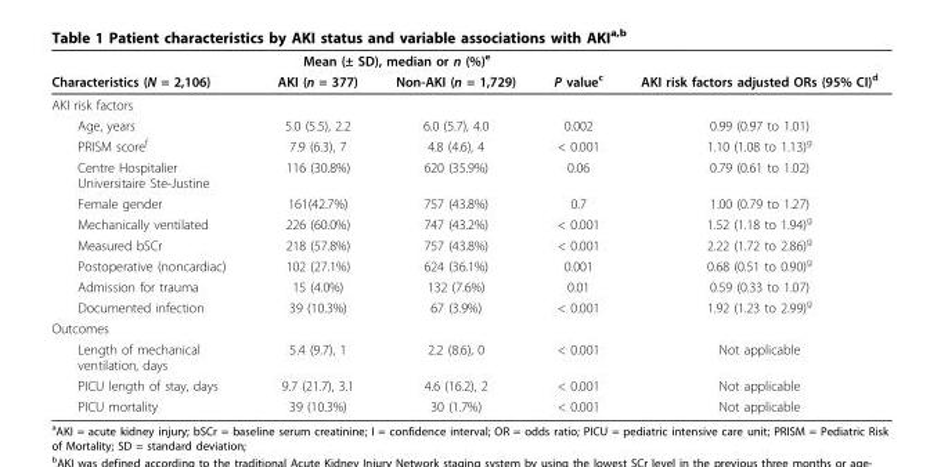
<table><thead><tr><td rowspan="2">Characteristics (N = 2,106)</td><td colspan="2">Mean (± SD), median or n (%)<sup>e</sup></td><td rowspan="2">P value<sup>c</sup></td><td rowspan="2">AKI risk factors adjusted ORs (95% CI)<sup>d</sup></td></tr><tr><td>AKI (n = 377)</td><td>Non-AKI (n = 1,729)</td></tr></thead><tbody><tr><td colspan="5">AKI risk factors</td></tr><tr><td>Age, years</td><td>5.0 (5.5), 2.2</td><td>6.0 (5.7), 4.0</td><td>0.002</td><td>0.99 (0.97 to 1.01)</td></tr><tr><td>PRISM score<sup>f</sup></td><td>7.9 (6.3), 7</td><td>4.8 (4.6), 4</td><td>&lt; 0.001</td><td>1.10 (1.08 to 1.13)<sup>g</sup></td></tr><tr><td>Centre Hospitalier Universitaire Ste-Justine</td><td>116 (30.8%)</td><td>620 (35.9%)</td><td>0.06</td><td>0.79 (0.61 to 1.02)</td></tr><tr><td>Female gender</td><td>161(42.7%)</td><td>757 (43.8%)</td><td>0.7</td><td>1.00 (0.79 to 1.27)</td></tr><tr><td>Mechanically ventilated</td><td>226 (60.0%)</td><td>747 (43.2%)</td><td>&lt; 0.001</td><td>1.52 (1.18 to 1.94)<sup>g</sup></td></tr><tr><td>Measured bSCr</td><td>218 (57.8%)</td><td>757 (43.8%)</td><td>&lt; 0.001</td><td>2.22 (1.72 to 2.86)<sup>g</sup></td></tr><tr><td>Postoperative (noncardiac)</td><td>102 (27.1%)</td><td>624 (36.1%)</td><td>0.001</td><td>0.68 (0.51 to 0.90)<sup>g</sup></td></tr><tr><td>Admission for trauma</td><td>15 (4.0%)</td><td>132 (7.6%)</td><td>0.01</td><td>0.59 (0.33 to 1.07)</td></tr><tr><td>Documented infection</td><td>39 (10.3%)</td><td>67 (3.9%)</td><td>&lt; 0.001</td><td>1.92 (1.23 to 2.99)<sup>g</sup></td></tr><tr><td colspan="5">Outcomes</td></tr><tr><td>Length of mechanical ventilation, days</td><td>5.4 (9.7), 1</td><td>2.2 (8.6), 0</td><td>&lt; 0.001</td><td>Not applicable</td></tr><tr><td>PICU length of stay, days</td><td>9.7 (21.7), 3.1</td><td>4.6 (16.2), 2</td><td>&lt; 0.001</td><td>Not applicable</td></tr><tr><td>PICU mortality</td><td>39 (10.3%)</td><td>30 (1.7%)</td><td>&lt; 0.001</td><td>Not applicable</td></tr></tbody></table>